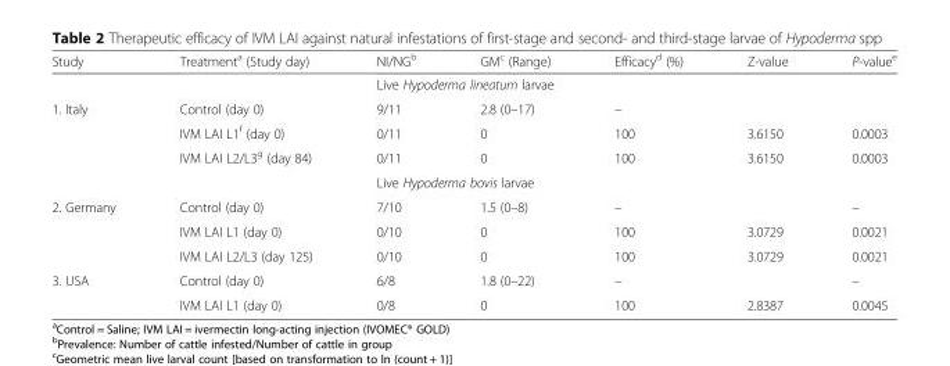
<table><thead><tr><td>Study</td><td>Treatment<sup>a</sup> (Study day)</td><td>NI/NG<sup>b</sup></td><td>GM<sup>c</sup> (Range)</td><td>Efficacy<sup>d</sup> (%)</td><td>Z-value</td><td>P-value<sup>e</sup></td></tr></thead><tbody><tr><td></td><td></td><td colspan="3">Live Hypoderma lineatum larvae</td><td></td><td></td></tr><tr><td rowspan="4">1. Italy</td><td>Control (day 0)</td><td>9/11</td><td>2.8 (0–17)</td><td>–</td><td></td><td></td></tr><tr><td>IVM LAI L1<sup>f</sup> (day 0)</td><td>0/11</td><td>0</td><td>100</td><td>3.6150</td><td>0.0003</td></tr><tr><td>IVM LAI L2/L3<sup>g</sup> (day 84)</td><td>0/11</td><td>0</td><td>100</td><td>3.6150</td><td>0.0003</td></tr><tr><td></td><td colspan="3">Live Hypoderma bovis larvae</td><td></td><td></td></tr><tr><td rowspan="3">2. Germany</td><td>Control (day 0)</td><td>7/10</td><td>1.5 (0–8)</td><td>–</td><td></td><td>–</td></tr><tr><td>IVM LAI L1 (day 0)</td><td>0/10</td><td>0</td><td>100</td><td>3.0729</td><td>0.0021</td></tr><tr><td>IVM LAI L2/L3 (day 125)</td><td>0/10</td><td>0</td><td>100</td><td>3.0729</td><td>0.0021</td></tr><tr><td rowspan="2">3. USA</td><td>Control (day 0)</td><td>6/8</td><td>1.8 (0–22)</td><td>–</td><td></td><td>–</td></tr><tr><td>IVM LAI L1 (day 0)</td><td>0/8</td><td>0</td><td>100</td><td>2.8387</td><td>0.0045</td></tr></tbody></table>